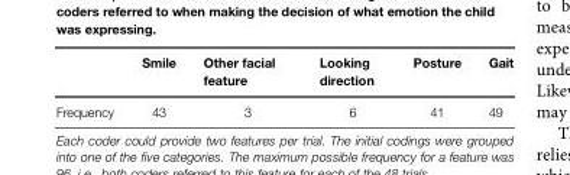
<table><thead><tr><td></td><td>Smile</td><td>Other facial feature</td><td>Looking direction</td><td>Posture</td><td>Gait</td></tr></thead><tbody><tr><td>Frequency</td><td>43</td><td>3</td><td>6</td><td>41</td><td>49</td></tr></tbody></table>